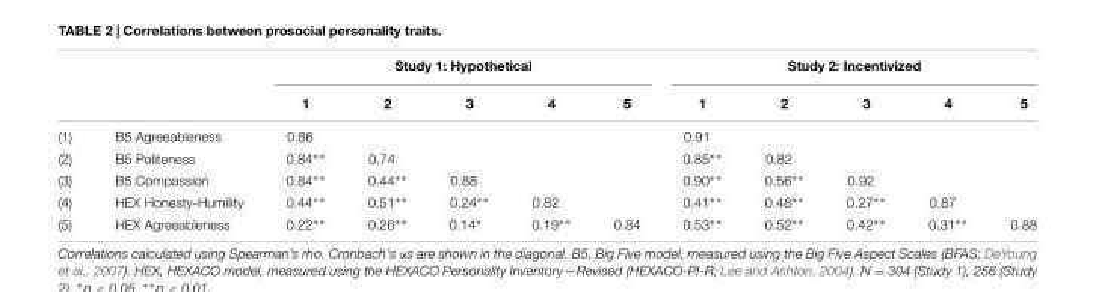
<table><thead><tr><td rowspan="2"></td><td rowspan="2"></td><td colspan="5">Study 1: Hypothetical</td><td colspan="5">Study 2: Incentivized</td></tr><tr><td>1</td><td>2</td><td>3</td><td>4</td><td>5</td><td>1</td><td>2</td><td>3</td><td>4</td><td>5</td></tr></thead><tbody><tr><td>(1)</td><td>B5 Agreeableness</td><td>0.86</td><td></td><td></td><td></td><td></td><td>0.91</td><td></td><td></td><td></td><td></td></tr><tr><td>(2)</td><td>B5 Politeness</td><td>0.84∗∗</td><td>0.74</td><td></td><td></td><td></td><td>0.85∗∗</td><td>0.82</td><td></td><td></td><td></td></tr><tr><td>(3)</td><td>B5 Compassion</td><td>0.84∗∗</td><td>0.44∗∗</td><td>0.88</td><td></td><td></td><td>0.90∗∗</td><td>0.56∗∗</td><td>0.92</td><td></td><td></td></tr><tr><td>(4)</td><td>HEX Honesty-Humility</td><td>0.44∗∗</td><td>0.51∗∗</td><td>0.24∗∗</td><td>0.82</td><td></td><td>0.41∗∗</td><td>0.48∗∗</td><td>0.27∗∗</td><td>0.87</td><td></td></tr><tr><td>(5)</td><td>HEX Agreeableness</td><td>0.22∗∗</td><td>0.26∗∗</td><td>0.14∗</td><td>0.19∗∗</td><td>0.84</td><td>0.53∗∗</td><td>0.52∗∗</td><td>0.42∗∗</td><td>0.31∗∗</td><td>0.88</td></tr></tbody></table>